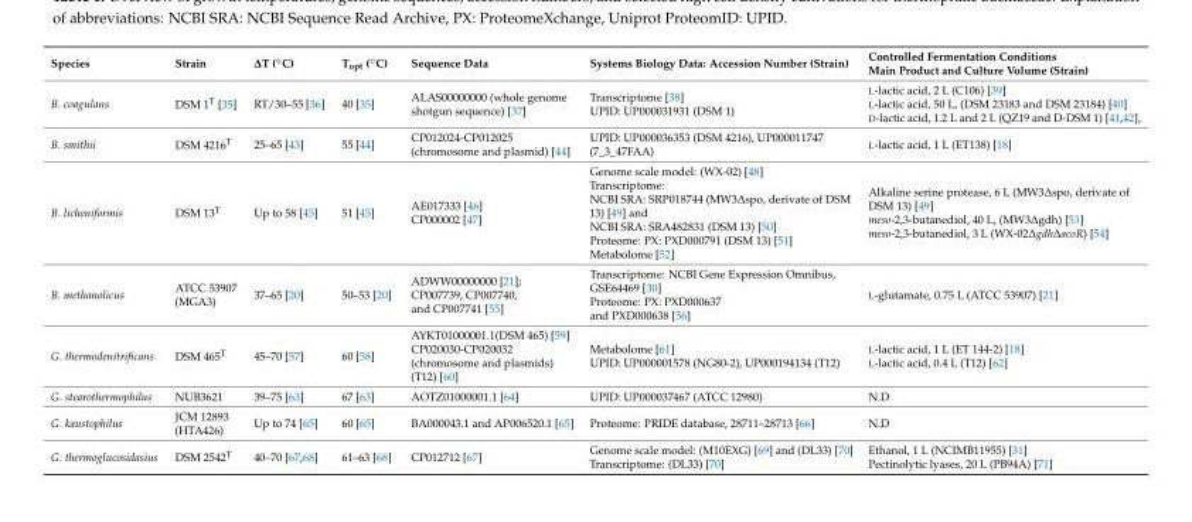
<table><thead><tr><td>Species</td><td>Strain</td><td>∆T (◦C)</td><td>Topt (◦C)</td><td>Sequence Data</td><td>Systems Biology Data: Accession Number (Strain)</td><td>Controlled Fermentation Conditions Main Product and Culture Volume (Strain)</td></tr></thead><tbody><tr><td>B. coagulans</td><td>DSM 1<sup>T</sup> [35]</td><td>RT/30–55 [36]</td><td>40 [35]</td><td>ALAS00000000 (whole genome shotgun sequence) [37]</td><td>Transcriptome [38] UPID: UP000031931 (DSM 1)</td><td>L-lactic acid, 2 L (C106) [39] L-lactic acid, 50 L, (DSM 23183 and DSM 23184) [40] D-lactic acid, 1.2 L and 2 L (QZ19 and D-DSM 1) [41,42],</td></tr><tr><td>B. smithii</td><td>DSM 4216<sup>T</sup></td><td>25–65 [43]</td><td>55 [44]</td><td>CP012024-CP012025 (chromosome and plasmid) [44]</td><td>UPID: UP000036353 (DSM 4216), UP000011747 (7_3_47FAA)</td><td>L-lactic acid, 1 L (ET138) [18]</td></tr><tr><td>B. licheniformis</td><td>DSM 13<sup>T</sup></td><td>Up to 58 [45]</td><td>51 [45]</td><td>AE017333 [46] CP000002 [47]</td><td>Genome scale model: (WX-02) [48] Transcriptome: NCBI SRA: SRP018744 (MW3∆spo, derivate of DSM 13) [49] and NCBI SRA: SRA482831 (DSM 13) [50] Proteome: PX: PXD000791 (DSM 13) [51] Metabolome [52]</td><td>Alkaline serine protease, 6 L (MW3∆spo, derivate of DSM 13) [49] meso-2,3-butanediol, 40 L, (MW3∆gdh) [53] meso-2,3-butanediol, 3 L (WX-02∆gdh∆acoR) [54]</td></tr><tr><td>B. methanolicus</td><td>ATCC 53907 (MGA3)</td><td>37–65 [20]</td><td>50–53 [20]</td><td>ADWW00000000 [21]; CP007739, CP007740, and CP007741 [55]</td><td>Transcriptome: NCBI Gene Expression Omnibus, GSE64469 [30] Proteome: PX: PXD000637 and PXD000638 [56]</td><td>L-glutamate, 0.75 L (ATCC 53907) [21]</td></tr><tr><td>G. thermodenitrificans</td><td>DSM 465<sup>T</sup></td><td>45–70 [57]</td><td>60 [58]</td><td>AYKT01000001.1(DSM 465) [59] CP020030-CP020032 (chromosome and plasmids) (T12) [60]</td><td>Metabolome [61] UPID: UP000001578 (NG80-2), UP000194134 (T12)</td><td>L-lactic acid, 1 L (ET 144-2) [18] L-lactic acid, 0.4 L (T12) [62]</td></tr><tr><td>G. stearothermophilus</td><td>NUB3621</td><td>39–75 [63]</td><td>67 [63]</td><td>AOTZ01000001.1 [64]</td><td>UPID: UP000037467 (ATCC 12980)</td><td>N.D</td></tr><tr><td>G. kaustophilus</td><td>JCM 12893 (HTA426)</td><td>Up to 74 [65]</td><td>60 [65]</td><td>BA000043.1 and AP006520.1 [65]</td><td>Proteome: PRIDE database, 28711–28713 [66]</td><td>N.D</td></tr><tr><td>G. thermoglucosidasius</td><td>DSM 2542<sup>T</sup></td><td>40–70 [67,68]</td><td>61–63 [68]</td><td>CP012712 [67]</td><td>Genome scale model: (M10EXG) [69] and (DL33) [70] Transcriptome: (DL33) [70]</td><td>Ethanol, 1 L (NCIMB11955) [31] Pectinolytic lyases, 20 L (PB94A) [71]</td></tr></tbody></table>